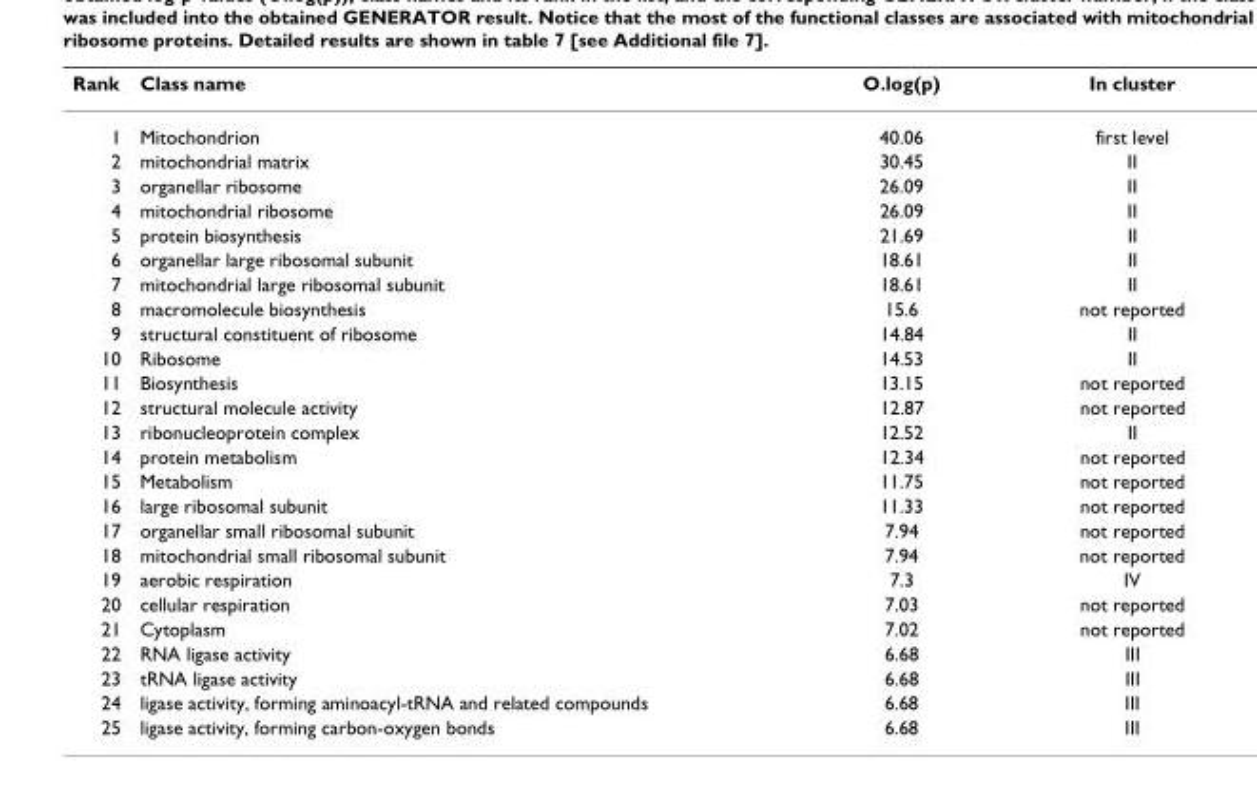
<table><thead><tr><td>Rank</td><td>Class name</td><td>O.log(p)</td><td>In cluster</td></tr></thead><tbody><tr><td>1</td><td>Mitochondrion</td><td>40.06</td><td>first level</td></tr><tr><td>2</td><td>mitochondrial matrix</td><td>30.45</td><td>II</td></tr><tr><td>3</td><td>organellar ribosome</td><td>26.09</td><td>II</td></tr><tr><td>4</td><td>mitochondrial ribosome</td><td>26.09</td><td>II</td></tr><tr><td>5</td><td>protein biosynthesis</td><td>21.69</td><td>II</td></tr><tr><td>6</td><td>organellar large ribosomal subunit</td><td>18.61</td><td>II</td></tr><tr><td>7</td><td>mitochondrial large ribosomal subunit</td><td>18.61</td><td>II</td></tr><tr><td>8</td><td>macromolecule biosynthesis</td><td>15.6</td><td>not reported</td></tr><tr><td>9</td><td>structural constituent of ribosome</td><td>14.84</td><td>II</td></tr><tr><td>10</td><td>Ribosome</td><td>14.53</td><td>II</td></tr><tr><td>11</td><td>Biosynthesis</td><td>13.15</td><td>not reported</td></tr><tr><td>12</td><td>structural molecule activity</td><td>12.87</td><td>not reported</td></tr><tr><td>13</td><td>ribonucleoprotein complex</td><td>12.52</td><td>II</td></tr><tr><td>14</td><td>protein metabolism</td><td>12.34</td><td>not reported</td></tr><tr><td>15</td><td>Metabolism</td><td>11.75</td><td>not reported</td></tr><tr><td>16</td><td>large ribosomal subunit</td><td>11.33</td><td>not reported</td></tr><tr><td>17</td><td>organellar small ribosomal subunit</td><td>7.94</td><td>not reported</td></tr><tr><td>18</td><td>mitochondrial small ribosomal subunit</td><td>7.94</td><td>not reported</td></tr><tr><td>19</td><td>aerobic respiration</td><td>7.3</td><td>IV</td></tr><tr><td>20</td><td>cellular respiration</td><td>7.03</td><td>not reported</td></tr><tr><td>21</td><td>Cytoplasm</td><td>7.02</td><td>not reported</td></tr><tr><td>22</td><td>RNA ligase activity</td><td>6.68</td><td>III</td></tr><tr><td>23</td><td>tRNA ligase activity</td><td>6.68</td><td>III</td></tr><tr><td>24</td><td>ligase activity, forming aminoacyl-tRNA and related compounds</td><td>6.68</td><td>III</td></tr><tr><td>25</td><td>ligase activity, forming carbon-oxygen bonds</td><td>6.68</td><td>III</td></tr></tbody></table>